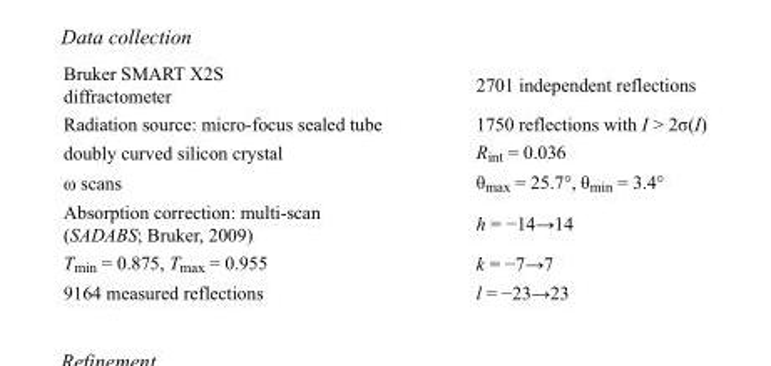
<table><tbody><tr><td>Bruker SMART X2S diffractometer</td><td>2701 independent reflections</td></tr><tr><td>Radiation source: micro-focus sealed tube</td><td>1750 reflections with I &gt; 2σ(I)</td></tr><tr><td>doubly curved silicon crystal</td><td>R<sub>int</sub> = 0.036</td></tr><tr><td>ω scans</td><td>θ<sub>max</sub> = 25.7°, θ<sub>min</sub> = 3.4°</td></tr><tr><td>Absorption correction: multi-scan (SADABS; Bruker, 2009)</td><td>h = −14→14</td></tr><tr><td>T<sub>min</sub> = 0.875, T<sub>max</sub> = 0.955</td><td>k = −7→7</td></tr><tr><td>9164 measured reflections</td><td>l = −23→23</td></tr></tbody></table>